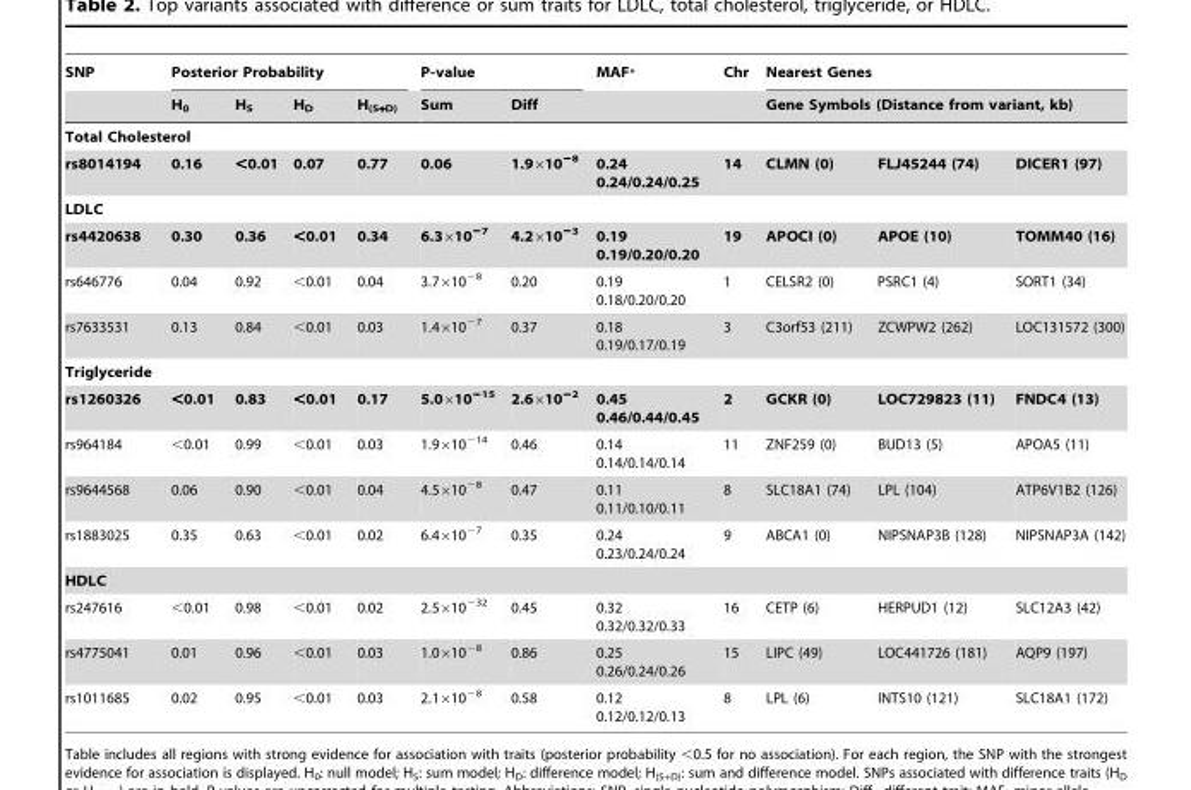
<table><thead><tr><td rowspan="2">SNP</td><td colspan="4">Posterior Probability</td><td colspan="2">P-value</td><td rowspan="2">MAF*</td><td rowspan="2">Chr</td><td rowspan="2" colspan="3">Nearest Genes Gene Symbols (Distance from variant, kb)</td></tr><tr><td>H<sub>0</sub></td><td>H<sub>S</sub></td><td>H<sub>D</sub></td><td>H<sub>(S+D)</sub></td><td>Sum</td><td>Diff</td></tr><tr><td colspan="12">Total Cholesterol</td></tr><tr><td>rs8014194</td><td>0.16</td><td>&lt;0.01</td><td>0.07</td><td>0.77</td><td>0.06</td><td>1.9×10<sup>−8</sup></td><td>0.24 0.24/0.24/0.25</td><td>14</td><td>CLMN (0)</td><td>FLJ45244 (74)</td><td>DICER1 (97)</td></tr></thead><tbody><tr><td colspan="12">LDLC</td></tr><tr><td>rs4420638</td><td>0.30</td><td>0.36</td><td>&lt;0.01</td><td>0.34</td><td>6.3×10<sup>−7</sup></td><td>4.2×10<sup>−3</sup></td><td>0.19 0.19/0.20/0.20</td><td>19</td><td>APOCI (0)</td><td>APOE (10)</td><td>TOMM40 (16)</td></tr><tr><td>rs646776</td><td>0.04</td><td>0.92</td><td>&lt;0.01</td><td>0.04</td><td>3.7×10<sup>−8</sup></td><td>0.20</td><td>0.19 0.18/0.20/0.20</td><td>1</td><td>CELSR2 (0)</td><td>PSRC1 (4)</td><td>SORT1 (34)</td></tr><tr><td>rs7633531</td><td>0.13</td><td>0.84</td><td>&lt;0.01</td><td>0.03</td><td>1.4×10<sup>−7</sup></td><td>0.37</td><td>0.18 0.19/0.17/0.19</td><td>3</td><td>C3orf53 (211)</td><td>ZCWPW2 (262)</td><td>LOC131572 (300)</td></tr><tr><td colspan="12">Triglyceride</td></tr><tr><td>rs1260326</td><td>&lt;0.01</td><td>0.83</td><td>&lt;0.01</td><td>0.17</td><td>5.0×10<sup>−15</sup></td><td>2.6×10<sup>−2</sup></td><td>0.45 0.46/0.44/0.45</td><td>2</td><td>GCKR (0)</td><td>LOC729823 (11)</td><td>FNDC4 (13)</td></tr><tr><td>rs964184</td><td>&lt;0.01</td><td>0.99</td><td>&lt;0.01</td><td>0.03</td><td>1.9×10<sup>−14</sup></td><td>0.46</td><td>0.14 0.14/0.14/0.14</td><td>11</td><td>ZNF259 (0)</td><td>BUD13 (5)</td><td>APOA5 (11)</td></tr><tr><td>rs9644568</td><td>0.06</td><td>0.90</td><td>&lt;0.01</td><td>0.04</td><td>4.5×10<sup>−8</sup></td><td>0.47</td><td>0.11 0.11/0.10/0.11</td><td>8</td><td>SLC18A1 (74)</td><td>LPL (104)</td><td>ATP6V1B2 (126)</td></tr><tr><td>rs1883025</td><td>0.35</td><td>0.63</td><td>&lt;0.01</td><td>0.02</td><td>6.4×10<sup>−7</sup></td><td>0.35</td><td>0.24 0.23/0.24/0.24</td><td>9</td><td>ABCA1 (0)</td><td>NIPSNAP3B (128)</td><td>NIPSNAP3A (142)</td></tr><tr><td colspan="12">HDLC</td></tr><tr><td>rs247616</td><td>&lt;0.01</td><td>0.98</td><td>&lt;0.01</td><td>0.02</td><td>2.5×10<sup>−32</sup></td><td>0.45</td><td>0.32 0.32/0.32/0.33</td><td>16</td><td>CETP (6)</td><td>HERPUD1 (12)</td><td>SLC12A3 (42)</td></tr><tr><td>rs4775041</td><td>0.01</td><td>0.96</td><td>&lt;0.01</td><td>0.03</td><td>1.0×10<sup>−8</sup></td><td>0.86</td><td>0.25 0.26/0.24/0.26</td><td>15</td><td>LIPC (49)</td><td>LOC441726 (181)</td><td>AQP9 (197)</td></tr><tr><td>rs1011685</td><td>0.02</td><td>0.95</td><td>&lt;0.01</td><td>0.03</td><td>2.1×10<sup>−8</sup></td><td>0.58</td><td>0.12 0.12/0.12/0.13</td><td>8</td><td>LPL (6)</td><td>INTS10 (121)</td><td>SLC18A1 (172)</td></tr></tbody></table>